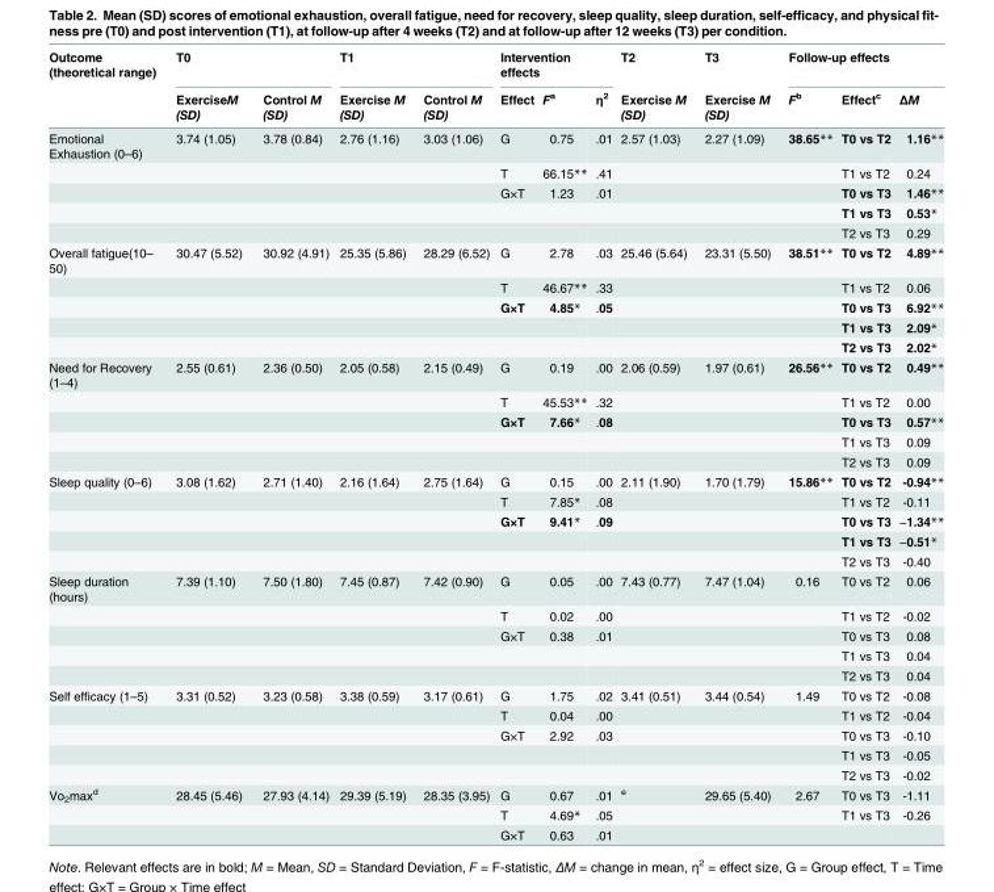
<table><thead><tr><td rowspan="2">Outcome (theoretical range)</td><td colspan="2">T0</td><td colspan="2">T1</td><td colspan="3">Intervention effects</td><td rowspan="2">T2 Exercise M (SD)</td><td rowspan="2">T3 Exercise M (SD)</td><td colspan="3">Follow-up effects</td></tr><tr><td>ExerciseM (SD)</td><td>Control M (SD)</td><td>Exercise M (SD)</td><td>Control M (SD)</td><td>Effect</td><td>F<sup>a</sup></td><td>η<sup>2</sup></td><td>F<sup>b</sup></td><td>Effect<sup>c</sup></td><td>ΔM</td></tr></thead><tbody><tr><td rowspan="5">Emotional Exhaustion (0–6)</td><td>3.74 (1.05)</td><td>3.78 (0.84)</td><td>2.76 (1.16)</td><td>3.03 (1.06)</td><td>G</td><td>0.75</td><td>.01</td><td>2.57 (1.03)</td><td>2.27 (1.09)</td><td>38.65**</td><td>T0 vs T2</td><td>1.16**</td></tr><tr><td></td><td></td><td></td><td></td><td>T</td><td>66.15**</td><td>.41</td><td></td><td></td><td></td><td>T1 vs T2</td><td>0.24</td></tr><tr><td></td><td></td><td></td><td></td><td>G×T</td><td>1.23</td><td>.01</td><td></td><td></td><td></td><td>T0 vs T3</td><td>1.46**</td></tr><tr><td></td><td></td><td></td><td></td><td></td><td></td><td></td><td></td><td></td><td></td><td>T1 vs T3</td><td>0.53*</td></tr><tr><td></td><td></td><td></td><td></td><td></td><td></td><td></td><td></td><td></td><td></td><td>T2 vs T3</td><td>0.29</td></tr><tr><td rowspan="5">Overall fatigue(10– 50)</td><td>30.47 (5.52)</td><td>30.92 (4.91)</td><td>25.35 (5.86)</td><td>28.29 (6.52)</td><td>G</td><td>2.78</td><td>.03</td><td>25.46 (5.64)</td><td>23.31 (5.50)</td><td>38.51**</td><td>T0 vs T2</td><td>4.89**</td></tr><tr><td></td><td></td><td></td><td></td><td>T</td><td>46.67**</td><td>.33</td><td></td><td></td><td></td><td>T1 vs T2</td><td>0.06</td></tr><tr><td></td><td></td><td></td><td></td><td>G×T</td><td>4.85*</td><td>.05</td><td></td><td></td><td></td><td>T0 vs T3</td><td>6.92**</td></tr><tr><td></td><td></td><td></td><td></td><td></td><td></td><td></td><td></td><td></td><td></td><td>T1 vs T3</td><td>2.09*</td></tr><tr><td></td><td></td><td></td><td></td><td></td><td></td><td></td><td></td><td></td><td></td><td>T2 vs T3</td><td>2.02*</td></tr><tr><td rowspan="5">Need for Recovery (1–4)</td><td>2.55 (0.61)</td><td>2.36 (0.50)</td><td>2.05 (0.58)</td><td>2.15 (0.49)</td><td>G</td><td>0.19</td><td>.00</td><td>2.06 (0.59)</td><td>1.97 (0.61)</td><td>26.56**</td><td>T0 vs T2</td><td>0.49**</td></tr><tr><td></td><td></td><td></td><td></td><td>T</td><td>45.53**</td><td>.32</td><td></td><td></td><td></td><td>T1 vs T2</td><td>0.00</td></tr><tr><td></td><td></td><td></td><td></td><td>G×T</td><td>7.66*</td><td>.08</td><td></td><td></td><td></td><td>T0 vs T3</td><td>0.57**</td></tr><tr><td></td><td></td><td></td><td></td><td></td><td></td><td></td><td></td><td></td><td></td><td>T1 vs T3</td><td>0.09</td></tr><tr><td></td><td></td><td></td><td></td><td></td><td></td><td></td><td></td><td></td><td></td><td>T2 vs T3</td><td>0.09</td></tr><tr><td rowspan="5">Sleep quality (0–6)</td><td>3.08 (1.62)</td><td>2.71 (1.40)</td><td>2.16 (1.64)</td><td>2.75 (1.64)</td><td>G</td><td>0.15</td><td>.00</td><td>2.11 (1.90)</td><td>1.70 (1.79)</td><td>15.86**</td><td>T0 vs T2</td><td>-0.94**</td></tr><tr><td></td><td></td><td></td><td></td><td>T</td><td>7.85*</td><td>.08</td><td></td><td></td><td></td><td>T1 vs T2</td><td>-0.11</td></tr><tr><td></td><td></td><td></td><td></td><td>G×T</td><td>9.41*</td><td>.09</td><td></td><td></td><td></td><td>T0 vs T3</td><td>−1.34**</td></tr><tr><td></td><td></td><td></td><td></td><td></td><td></td><td></td><td></td><td></td><td></td><td>T1 vs T3</td><td>−0.51*</td></tr><tr><td></td><td></td><td></td><td></td><td></td><td></td><td></td><td></td><td></td><td></td><td>T2 vs T3</td><td>-0.40</td></tr><tr><td rowspan="5">Sleep duration (hours)</td><td>7.39 (1.10)</td><td>7.50 (1.80)</td><td>7.45 (0.87)</td><td>7.42 (0.90)</td><td>G</td><td>0.05</td><td>.00</td><td>7.43 (0.77)</td><td>7.47 (1.04)</td><td>0.16</td><td>T0 vs T2</td><td>0.06</td></tr><tr><td></td><td></td><td></td><td></td><td>T</td><td>0.02</td><td>.00</td><td></td><td></td><td></td><td>T1 vs T2</td><td>-0.02</td></tr><tr><td></td><td></td><td></td><td></td><td>G×T</td><td>0.38</td><td>.01</td><td></td><td></td><td></td><td>T0 vs T3</td><td>0.08</td></tr><tr><td></td><td></td><td></td><td></td><td></td><td></td><td></td><td></td><td></td><td></td><td>T1 vs T3</td><td>0.04</td></tr><tr><td></td><td></td><td></td><td></td><td></td><td></td><td></td><td></td><td></td><td></td><td>T2 vs T3</td><td>0.04</td></tr><tr><td rowspan="5">Self efficacy (1–5)</td><td>3.31 (0.52)</td><td>3.23 (0.58)</td><td>3.38 (0.59)</td><td>3.17 (0.61)</td><td>G</td><td>1.75</td><td>.02</td><td>3.41 (0.51)</td><td>3.44 (0.54)</td><td>1.49</td><td>T0 vs T2</td><td>-0.08</td></tr><tr><td></td><td></td><td></td><td></td><td>T</td><td>0.04</td><td>.00</td><td></td><td></td><td></td><td>T1 vs T2</td><td>-0.04</td></tr><tr><td></td><td></td><td></td><td></td><td>G×T</td><td>2.92</td><td>.03</td><td></td><td></td><td></td><td>T0 vs T3</td><td>-0.10</td></tr><tr><td></td><td></td><td></td><td></td><td></td><td></td><td></td><td></td><td></td><td></td><td>T1 vs T3</td><td>-0.05</td></tr><tr><td></td><td></td><td></td><td></td><td></td><td></td><td></td><td></td><td></td><td></td><td>T2 vs T3</td><td>-0.02</td></tr><tr><td rowspan="3">Vo<sub>2</sub>max<sup>d</sup></td><td>28.45 (5.46)</td><td>27.93 (4.14)</td><td>29.39 (5.19)</td><td>28.35 (3.95)</td><td>G</td><td>0.67</td><td>.01</td><td><sup>e</sup></td><td>29.65 (5.40)</td><td>2.67</td><td>T0 vs T3</td><td>-1.11</td></tr><tr><td></td><td></td><td></td><td></td><td>T</td><td>4.69*</td><td>.05</td><td></td><td></td><td></td><td>T1 vs T3</td><td>-0.26</td></tr><tr><td></td><td></td><td></td><td></td><td>G×T</td><td>0.63</td><td>.01</td><td></td><td></td><td></td><td></td><td></td></tr></tbody></table>